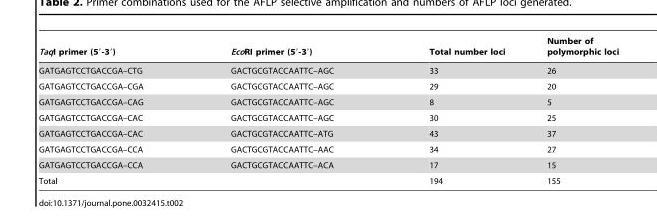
<table><thead><tr><td>TaqI primer (5′-3′)</td><td>EcoRI primer (5′-3′)</td><td>Total number loci</td><td>Number of polymorphic loci</td></tr></thead><tbody><tr><td>GATGAGTCCTGACCGA–CTG</td><td>GACTGCGTACCAATTC–AGC</td><td>33</td><td>26</td></tr><tr><td>GATGAGTCCTGACCGA–CGA</td><td>GACTGCGTACCAATTC–AGC</td><td>29</td><td>20</td></tr><tr><td>GATGAGTCCTGACCGA–CAG</td><td>GACTGCGTACCAATTC–AGC</td><td>8</td><td>5</td></tr><tr><td>GATGAGTCCTGACCGA–CAC</td><td>GACTGCGTACCAATTC–AGC</td><td>30</td><td>25</td></tr><tr><td>GATGAGTCCTGACCGA–CAC</td><td>GACTGCGTACCAATTC–ATG</td><td>43</td><td>37</td></tr><tr><td>GATGAGTCCTGACCGA–CCA</td><td>GACTGCGTACCAATTC–AAC</td><td>34</td><td>27</td></tr><tr><td>GATGAGTCCTGACCGA–CCA</td><td>GACTGCGTACCAATTC–ACA</td><td>17</td><td>15</td></tr><tr><td>Total</td><td></td><td>194</td><td>155</td></tr></tbody></table>